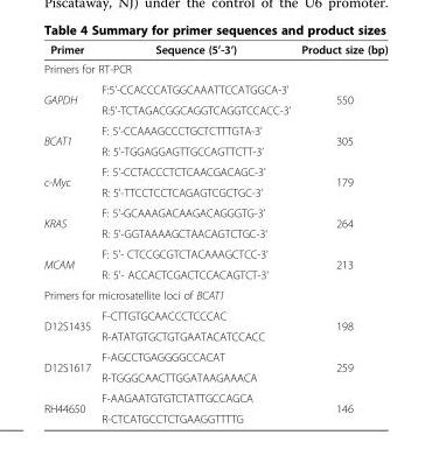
<table><thead><tr><td>Primer</td><td>Sequence (5’-3’)</td><td>Product size (bp)</td></tr></thead><tbody><tr><td colspan="3">Primers for RT-PCR</td></tr><tr><td rowspan="2">GAPDH</td><td>F:5&#x27;-CCACCCATGGCAAATTCCATGGCA-3&#x27;</td><td rowspan="2">550</td></tr><tr><td>R:5&#x27;-TCTAGACGGCAGGTCAGGTCCACC-3&#x27;</td></tr><tr><td rowspan="2">BCAT1</td><td>F: 5&#x27;-CCAAAGCCCTGCTCTTTGTA-3&#x27;</td><td rowspan="2">305</td></tr><tr><td>R: 5&#x27;-TGGAGGAGTTGCCAGTTCTT-3&#x27;</td></tr><tr><td rowspan="2">c-Myc</td><td>F: 5&#x27;-CCTACCCTCTCAACGACAGC-3&#x27;</td><td rowspan="2">179</td></tr><tr><td>R: 5&#x27;-TTCCTCCTCAGAGTCGCTGC-3&#x27;</td></tr><tr><td rowspan="2">KRAS</td><td>F: 5&#x27;-GCAAAGACAAGACAGGGTG-3&#x27;</td><td rowspan="2">264</td></tr><tr><td>R: 5&#x27;-GGTAAAAGCTAACAGTCTGC-3&#x27;</td></tr><tr><td rowspan="2">MCAM</td><td>F: 5&#x27;- CTCCGCGTCTACAAAGCTCC-3&#x27;</td><td rowspan="2">213</td></tr><tr><td>R: 5&#x27;- ACCACTCGACTCCACAGTCT-3&#x27;</td></tr><tr><td colspan="3">Primers for microsatellite loci of BCAT1</td></tr><tr><td rowspan="2">D12S1435</td><td>F-CTTGTGCAACCCTCCCAC</td><td rowspan="2">198</td></tr><tr><td>R-ATATGTGCTGTGAATACATCCACC</td></tr><tr><td rowspan="2">D12S1617</td><td>F-AGCCTGAGGGGCCACAT</td><td rowspan="2">259</td></tr><tr><td>R-TGGGCAACTTGGATAAGAAACA</td></tr><tr><td rowspan="2">RH44650</td><td>F-AAGAATGTGTCTATTGCCAGCA</td><td rowspan="2">146</td></tr><tr><td>R-CTCATGCCTCTGAAGGTTTTG</td></tr></tbody></table>